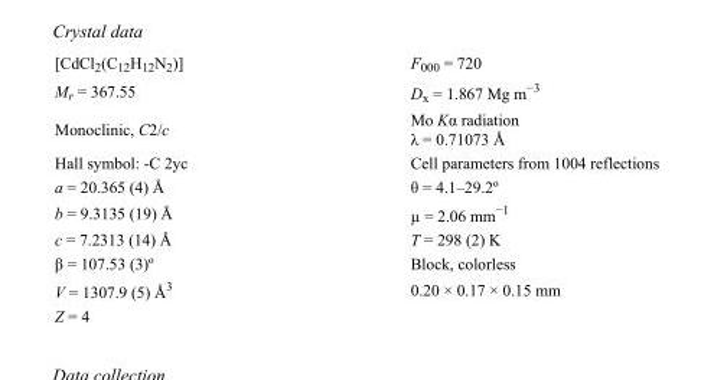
<table><tbody><tr><td>[CdCl<sub>2</sub>(C<sub>12</sub>H<sub>12</sub>N<sub>2</sub>)]</td><td>F000 = 720</td></tr><tr><td>M<sub>r</sub> = 367.55</td><td>D<sub>x</sub> = 1.867 Mg m<sup>−3</sup></td></tr><tr><td>Monoclinic, C2/c</td><td>Mo Kα radiation λ = 0.71073 Å</td></tr><tr><td>Hall symbol: -C 2yc</td><td>Cell parameters from 1004 reflections</td></tr><tr><td>a = 20.365 (4) Å</td><td>θ = 4.1–29.2º</td></tr><tr><td>b = 9.3135 (19) Å</td><td>µ = 2.06 mm<sup>−1</sup></td></tr><tr><td>c = 7.2313 (14) Å</td><td>T = 298 (2) K</td></tr><tr><td>β = 107.53 (3)º</td><td>Block, colorless</td></tr><tr><td>V = 1307.9 (5) Å<sup>3</sup></td><td>0.20 × 0.17 × 0.15 mm</td></tr><tr><td>Z = 4</td><td></td></tr></tbody></table>